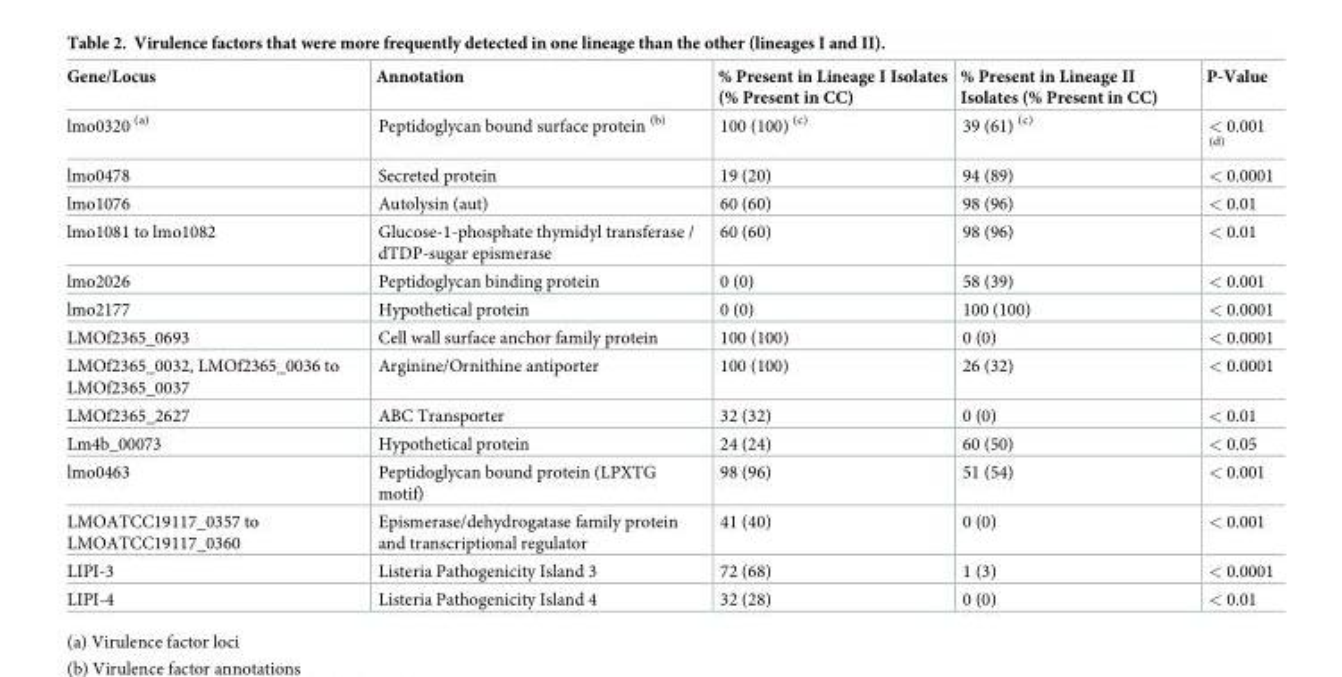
<table><thead><tr><td>Gene/Locus</td><td>Annotation</td><td>% Present in Lineage I Isolates (% Present in CC)</td><td>% Present in Lineage II Isolates (% Present in CC)</td><td>P-Value</td></tr></thead><tbody><tr><td>lmo0320 <sup>(a)</sup></td><td>Peptidoglycan bound surface protein <sup>(b)</sup></td><td>100 (100) <sup>(c)</sup></td><td>39 (61) <sup>(c)</sup></td><td>&lt; 0.001 <sup>(d)</sup></td></tr><tr><td>lmo0478</td><td>Secreted protein</td><td>19 (20)</td><td>94 (89)</td><td>&lt; 0.0001</td></tr><tr><td>lmo1076</td><td>Autolysin (aut)</td><td>60 (60)</td><td>98 (96)</td><td>&lt; 0.01</td></tr><tr><td>lmo1081 to lmo1082</td><td>Glucose-1-phosphate thymidyl transferase / dTDP-sugar epismerase</td><td>60 (60)</td><td>98 (96)</td><td>&lt; 0.01</td></tr><tr><td>lmo2026</td><td>Peptidoglycan binding protein</td><td>0 (0)</td><td>58 (39)</td><td>&lt; 0.001</td></tr><tr><td>lmo2177</td><td>Hypothetical protein</td><td>0 (0)</td><td>100 (100)</td><td>&lt; 0.0001</td></tr><tr><td>LMOf2365_0693</td><td>Cell wall surface anchor family protein</td><td>100 (100)</td><td>0 (0)</td><td>&lt; 0.0001</td></tr><tr><td>LMOf2365_0032, LMOf2365_0036 to LMOf2365_0037</td><td>Arginine/Ornithine antiporter</td><td>100 (100)</td><td>26 (32)</td><td>&lt; 0.0001</td></tr><tr><td>LMOf2365_2627</td><td>ABC Transporter</td><td>32 (32)</td><td>0 (0)</td><td>&lt; 0.01</td></tr><tr><td>Lm4b_00073</td><td>Hypothetical protein</td><td>24 (24)</td><td>60 (50)</td><td>&lt; 0.05</td></tr><tr><td>lmo0463</td><td>Peptidoglycan bound protein (LPXTG motif)</td><td>98 (96)</td><td>51 (54)</td><td>&lt; 0.001</td></tr><tr><td>LMOATCC19117_0357 to LMOATCC19117_0360</td><td>Epismerase/dehydrogatase family protein and transcriptional regulator</td><td>41 (40)</td><td>0 (0)</td><td>&lt; 0.001</td></tr><tr><td>LIPI-3</td><td>Listeria Pathogenicity Island 3</td><td>72 (68)</td><td>1 (3)</td><td>&lt; 0.0001</td></tr><tr><td>LIPI-4</td><td>Listeria Pathogenicity Island 4</td><td>32 (28)</td><td>0 (0)</td><td>&lt; 0.01</td></tr></tbody></table>